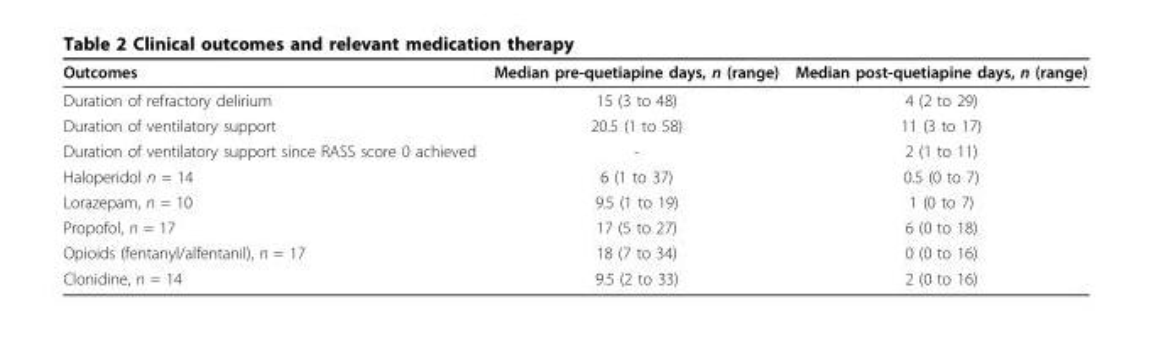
<table><thead><tr><td>Outcomes</td><td>Median pre-quetiapine days, n (range)</td><td>Median post-quetiapine days, n (range)</td></tr></thead><tbody><tr><td>Duration of refractory delirium</td><td>15 (3 to 48)</td><td>4 (2 to 29)</td></tr><tr><td>Duration of ventilatory support</td><td>20.5 (1 to 58)</td><td>11 (3 to 17)</td></tr><tr><td>Duration of ventilatory support since RASS score 0 achieved</td><td>-</td><td>2 (1 to 11)</td></tr><tr><td>Haloperidol n = 14</td><td>6 (1 to 37)</td><td>0.5 (0 to 7)</td></tr><tr><td>Lorazepam, n = 10</td><td>9.5 (1 to 19)</td><td>1 (0 to 7)</td></tr><tr><td>Propofol, n = 17</td><td>17 (5 to 27)</td><td>6 (0 to 18)</td></tr><tr><td>Opioids (fentanyl/alfentanil), n = 17</td><td>18 (7 to 34)</td><td>0 (0 to 16)</td></tr><tr><td>Clonidine, n = 14</td><td>9.5 (2 to 33)</td><td>2 (0 to 16)</td></tr></tbody></table>